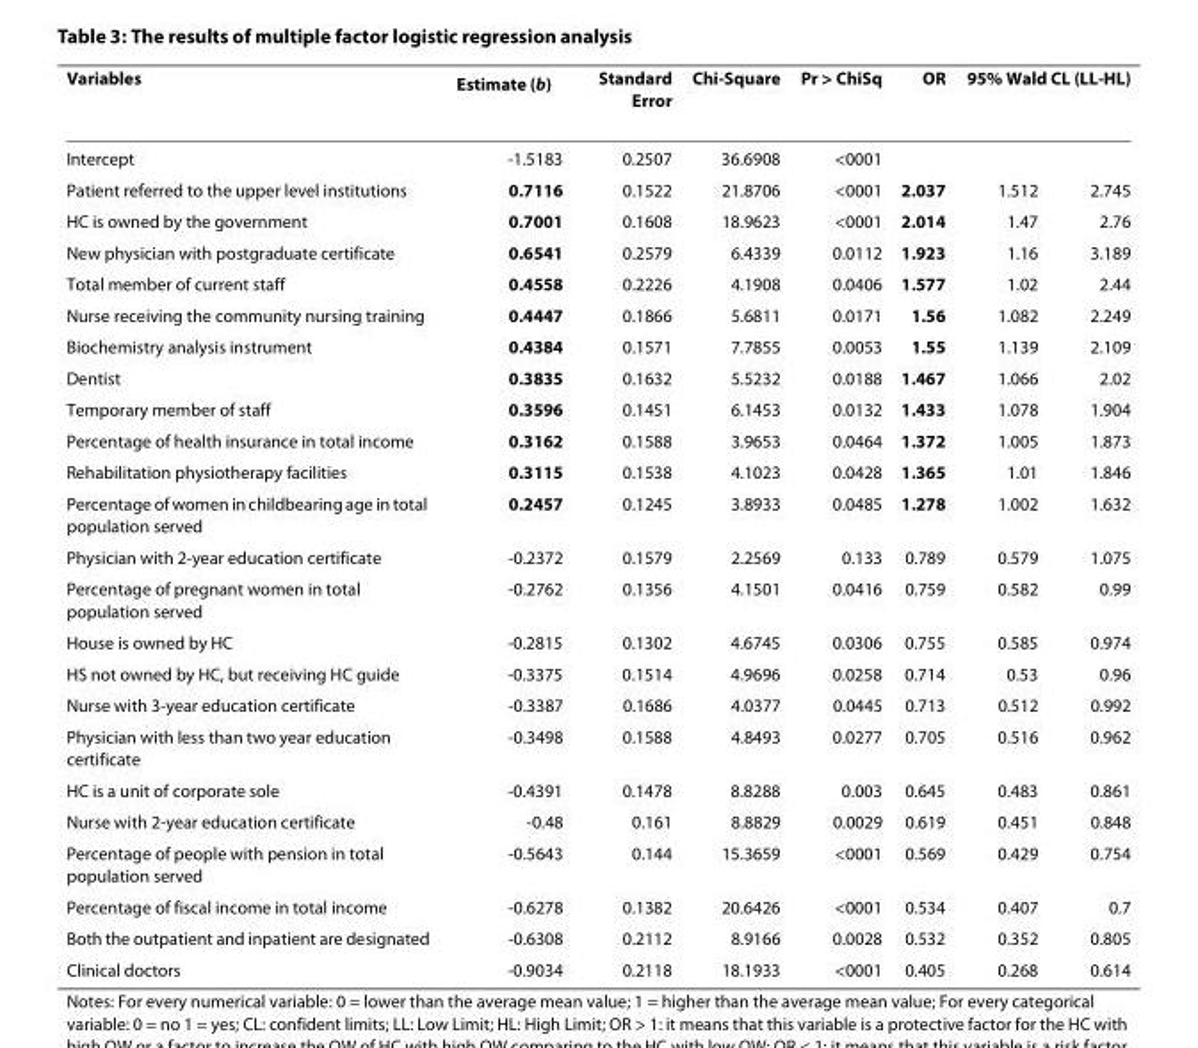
<table><thead><tr><td rowspan="2">Variables Intercept</td><td rowspan="2">Estimate (b) -1.5183</td><td rowspan="2">Standard Error 0.2507</td><td rowspan="2">Chi-Square 36.6908</td><td rowspan="2">Pr &gt; ChiSq &lt;0001</td><td rowspan="2">OR</td><td colspan="2">95% Wald CL (LL-HL)</td></tr><tr><td></td><td></td></tr></thead><tbody><tr><td>Patient referred to the upper level institutions</td><td>0.7116</td><td>0.1522</td><td>21.8706</td><td>&lt;0001</td><td>2.037</td><td>1.512</td><td>2.745</td></tr><tr><td>HC is owned by the government</td><td>0.7001</td><td>0.1608</td><td>18.9623</td><td>&lt;0001</td><td>2.014</td><td>1.47</td><td>2.76</td></tr><tr><td>New physician with postgraduate certificate</td><td>0.6541</td><td>0.2579</td><td>6.4339</td><td>0.0112</td><td>1.923</td><td>1.16</td><td>3.189</td></tr><tr><td>Total member of current staff</td><td>0.4558</td><td>0.2226</td><td>4.1908</td><td>0.0406</td><td>1.577</td><td>1.02</td><td>2.44</td></tr><tr><td>Nurse receiving the community nursing training</td><td>0.4447</td><td>0.1866</td><td>5.6811</td><td>0.0171</td><td>1.56</td><td>1.082</td><td>2.249</td></tr><tr><td>Biochemistry analysis instrument</td><td>0.4384</td><td>0.1571</td><td>7.7855</td><td>0.0053</td><td>1.55</td><td>1.139</td><td>2.109</td></tr><tr><td>Dentist</td><td>0.3835</td><td>0.1632</td><td>5.5232</td><td>0.0188</td><td>1.467</td><td>1.066</td><td>2.02</td></tr><tr><td>Temporary member of staff</td><td>0.3596</td><td>0.1451</td><td>6.1453</td><td>0.0132</td><td>1.433</td><td>1.078</td><td>1.904</td></tr><tr><td>Percentage of health insurance in total income</td><td>0.3162</td><td>0.1588</td><td>3.9653</td><td>0.0464</td><td>1.372</td><td>1.005</td><td>1.873</td></tr><tr><td>Rehabilitation physiotherapy facilities</td><td>0.3115</td><td>0.1538</td><td>4.1023</td><td>0.0428</td><td>1.365</td><td>1.01</td><td>1.846</td></tr><tr><td>Percentage of women in childbearing age in total population served</td><td>0.2457</td><td>0.1245</td><td>3.8933</td><td>0.0485</td><td>1.278</td><td>1.002</td><td>1.632</td></tr><tr><td>Physician with 2-year education certificate</td><td>-0.2372</td><td>0.1579</td><td>2.2569</td><td>0.133</td><td>0.789</td><td>0.579</td><td>1.075</td></tr><tr><td>Percentage of pregnant women in total population served</td><td>-0.2762</td><td>0.1356</td><td>4.1501</td><td>0.0416</td><td>0.759</td><td>0.582</td><td>0.99</td></tr><tr><td>House is owned by HC</td><td>-0.2815</td><td>0.1302</td><td>4.6745</td><td>0.0306</td><td>0.755</td><td>0.585</td><td>0.974</td></tr><tr><td>HS not owned by HC, but receiving HC guide</td><td>-0.3375</td><td>0.1514</td><td>4.9696</td><td>0.0258</td><td>0.714</td><td>0.53</td><td>0.96</td></tr><tr><td>Nurse with 3-year education certificate</td><td>-0.3387</td><td>0.1686</td><td>4.0377</td><td>0.0445</td><td>0.713</td><td>0.512</td><td>0.992</td></tr><tr><td>Physician with less than two year education certificate</td><td>-0.3498</td><td>0.1588</td><td>4.8493</td><td>0.0277</td><td>0.705</td><td>0.516</td><td>0.962</td></tr><tr><td>HC is a unit of corporate sole</td><td>-0.4391</td><td>0.1478</td><td>8.8288</td><td>0.003</td><td>0.645</td><td>0.483</td><td>0.861</td></tr><tr><td>Nurse with 2-year education certificate</td><td>-0.48</td><td>0.161</td><td>8.8829</td><td>0.0029</td><td>0.619</td><td>0.451</td><td>0.848</td></tr><tr><td>Percentage of people with pension in total population served</td><td>-0.5643</td><td>0.144</td><td>15.3659</td><td>&lt;0001</td><td>0.569</td><td>0.429</td><td>0.754</td></tr><tr><td>Percentage of fiscal income in total income</td><td>-0.6278</td><td>0.1382</td><td>20.6426</td><td>&lt;0001</td><td>0.534</td><td>0.407</td><td>0.7</td></tr><tr><td>Both the outpatient and inpatient are designated</td><td>-0.6308</td><td>0.2112</td><td>8.9166</td><td>0.0028</td><td>0.532</td><td>0.352</td><td>0.805</td></tr><tr><td>Clinical doctors</td><td>-0.9034</td><td>0.2118</td><td>18.1933</td><td>&lt;0001</td><td>0.405</td><td>0.268</td><td>0.614</td></tr></tbody></table>